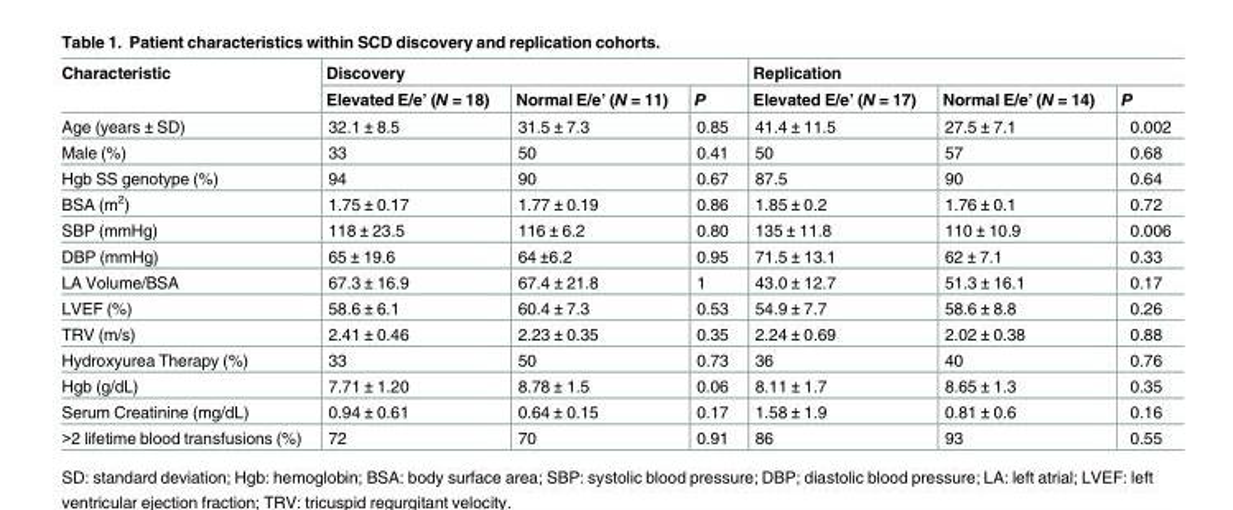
<table><thead><tr><td rowspan="2">Characteristic</td><td colspan="3">Discovery</td><td colspan="3">Replication</td></tr><tr><td>Elevated E/e’ (N = 18)</td><td>Normal E/e’ (N = 11)</td><td>P</td><td>Elevated E/e’ (N = 17)</td><td>Normal E/e’ (N = 14)</td><td>P</td></tr></thead><tbody><tr><td>Age (years ± SD)</td><td>32.1 ± 8.5</td><td>31.5 ± 7.3</td><td>0.85</td><td>41.4 ± 11.5</td><td>27.5 ± 7.1</td><td>0.002</td></tr><tr><td>Male (%)</td><td>33</td><td>50</td><td>0.41</td><td>50</td><td>57</td><td>0.68</td></tr><tr><td>Hgb SS genotype (%)</td><td>94</td><td>90</td><td>0.67</td><td>87.5</td><td>90</td><td>0.64</td></tr><tr><td>BSA (m<sup>2</sup>)</td><td>1.75 ± 0.17</td><td>1.77 ± 0.19</td><td>0.86</td><td>1.85 ± 0.2</td><td>1.76 ± 0.1</td><td>0.72</td></tr><tr><td>SBP (mmHg)</td><td>118 ± 23.5</td><td>116 ± 6.2</td><td>0.80</td><td>135 ± 11.8</td><td>110 ± 10.9</td><td>0.006</td></tr><tr><td>DBP (mmHg)</td><td>65 ± 19.6</td><td>64 ±6.2</td><td>0.95</td><td>71.5 ± 13.1</td><td>62 ± 7.1</td><td>0.33</td></tr><tr><td>LA Volume/BSA</td><td>67.3 ± 16.9</td><td>67.4 ± 21.8</td><td>1</td><td>43.0 ± 12.7</td><td>51.3 ± 16.1</td><td>0.17</td></tr><tr><td>LVEF (%)</td><td>58.6 ± 6.1</td><td>60.4 ± 7.3</td><td>0.53</td><td>54.9 ± 7.7</td><td>58.6 ± 8.8</td><td>0.26</td></tr><tr><td>TRV (m/s)</td><td>2.41 ± 0.46</td><td>2.23 ± 0.35</td><td>0.35</td><td>2.24 ± 0.69</td><td>2.02 ± 0.38</td><td>0.88</td></tr><tr><td>Hydroxyurea Therapy (%)</td><td>33</td><td>50</td><td>0.73</td><td>36</td><td>40</td><td>0.76</td></tr><tr><td>Hgb (g/dL)</td><td>7.71 ± 1.20</td><td>8.78 ± 1.5</td><td>0.06</td><td>8.11 ± 1.7</td><td>8.65 ± 1.3</td><td>0.35</td></tr><tr><td>Serum Creatinine (mg/dL)</td><td>0.94 ± 0.61</td><td>0.64 ± 0.15</td><td>0.17</td><td>1.58 ± 1.9</td><td>0.81 ± 0.6</td><td>0.16</td></tr><tr><td>&gt;2 lifetime blood transfusions (%)</td><td>72</td><td>70</td><td>0.91</td><td>86</td><td>93</td><td>0.55</td></tr></tbody></table>